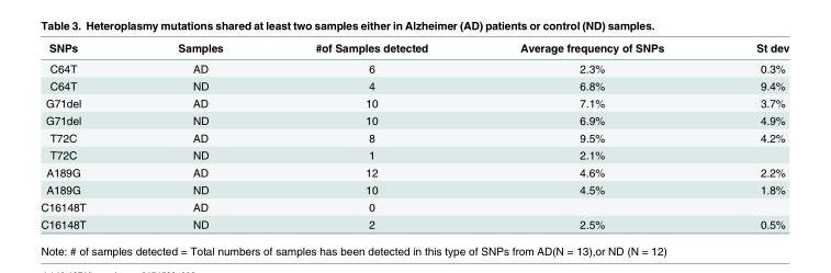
<table><thead><tr><td>SNPs</td><td>Samples</td><td>#of Samples detected</td><td>Average frequency of SNPs</td><td>St dev</td></tr></thead><tbody><tr><td>C64T</td><td>AD</td><td>6</td><td>2.3%</td><td>0.3%</td></tr><tr><td>C64T</td><td>ND</td><td>4</td><td>6.8%</td><td>9.4%</td></tr><tr><td>G71del</td><td>AD</td><td>10</td><td>7.1%</td><td>3.7%</td></tr><tr><td>G71del</td><td>ND</td><td>10</td><td>6.9%</td><td>4.9%</td></tr><tr><td>T72C</td><td>AD</td><td>8</td><td>9.5%</td><td>4.2%</td></tr><tr><td>T72C</td><td>ND</td><td>1</td><td>2.1%</td><td></td></tr><tr><td>A189G</td><td>AD</td><td>12</td><td>4.6%</td><td>2.2%</td></tr><tr><td>A189G</td><td>ND</td><td>10</td><td>4.5%</td><td>1.8%</td></tr><tr><td>C16148T</td><td>AD</td><td>0</td><td></td><td></td></tr><tr><td>C16148T</td><td>ND</td><td>2</td><td>2.5%</td><td>0.5%</td></tr></tbody></table>